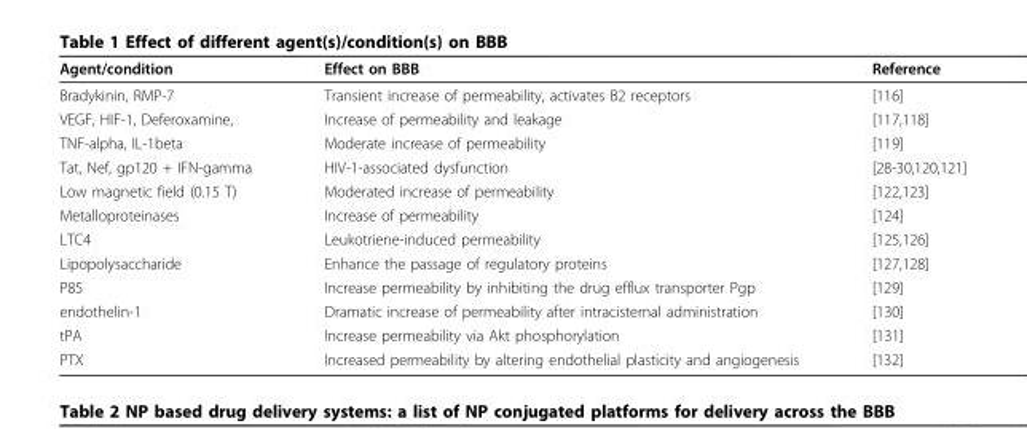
<table><thead><tr><td>Agent/condition</td><td>Effect on BBB</td><td>Reference</td></tr></thead><tbody><tr><td>Bradykinin, RMP-7</td><td>Transient increase of permeability, activates B2 receptors</td><td>[116]</td></tr><tr><td>VEGF, HIF-1, Deferoxamine,</td><td>Increase of permeability and leakage</td><td>[117,118]</td></tr><tr><td>TNF-alpha, IL-1beta</td><td>Moderate increase of permeability</td><td>[119]</td></tr><tr><td>Tat, Nef, gp120 + IFN-gamma</td><td>HIV-1-associated dysfunction</td><td>[28-30,120,121]</td></tr><tr><td>Low magnetic field (0.15 T)</td><td>Moderated increase of permeability</td><td>[122,123]</td></tr><tr><td>Metalloproteinases</td><td>Increase of permeability</td><td>[124]</td></tr><tr><td>LTC4</td><td>Leukotriene-induced permeability</td><td>[125,126]</td></tr><tr><td>Lipopolysaccharide</td><td>Enhance the passage of regulatory proteins</td><td>[127,128]</td></tr><tr><td>P85</td><td>Increase permeability by inhibiting the drug efflux transporter Pgp</td><td>[129]</td></tr><tr><td>endothelin-1</td><td>Dramatic increase of permeability after intracisternal administration</td><td>[130]</td></tr><tr><td>tPA</td><td>Increase permeability via Akt phosphorylation</td><td>[131]</td></tr><tr><td>PTX</td><td>Increased permeability by altering endothelial plasticity and angiogenesis</td><td>[132]</td></tr></tbody></table>